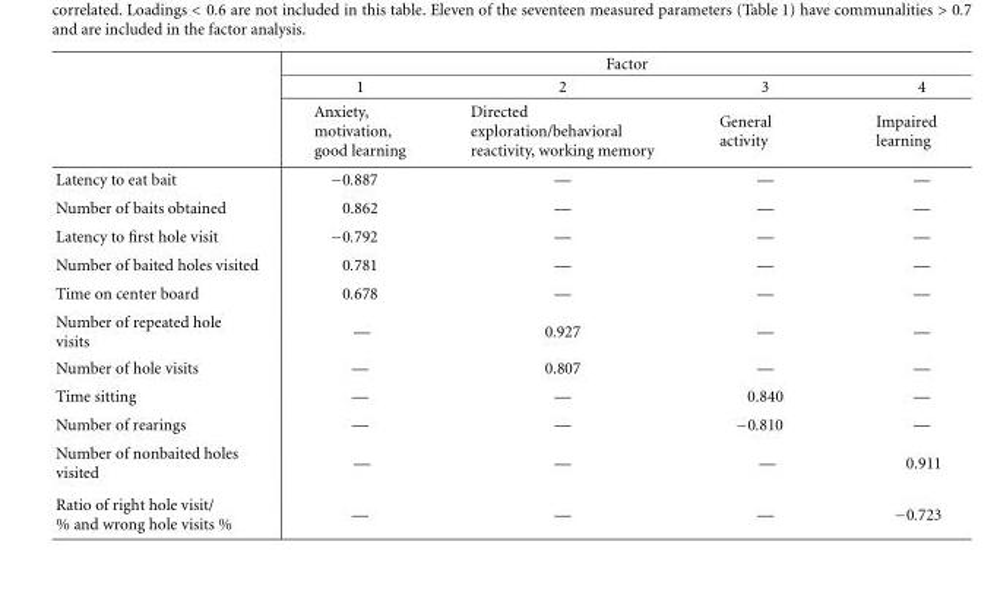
<table><thead><tr><td rowspan="2"></td><td colspan="4">Factor</td></tr><tr><td>1</td><td>2</td><td>3</td><td>4</td></tr></thead><tbody><tr><td></td><td>Anxiety, motivation, good learning</td><td>Directed exploration/behavioral reactivity, working memory</td><td>General activity</td><td>Impaired learning</td></tr><tr><td>Latency to eat bait</td><td>−0.887</td><td>—</td><td>—</td><td>—</td></tr><tr><td>Number of baits obtained</td><td>0.862</td><td>—</td><td>—</td><td>—</td></tr><tr><td>Latency to first hole visit</td><td>−0.792</td><td>—</td><td>—</td><td>—</td></tr><tr><td>Number of baited holes visited</td><td>0.781</td><td>—</td><td>—</td><td>—</td></tr><tr><td>Time on center board</td><td>0.678</td><td>—</td><td>—</td><td>—</td></tr><tr><td>Number of repeated hole visits</td><td>—</td><td>0.927</td><td>—</td><td>—</td></tr><tr><td>Number of hole visits</td><td>—</td><td>0.807</td><td>—</td><td>—</td></tr><tr><td>Time sitting</td><td>—</td><td>—</td><td>0.840</td><td>—</td></tr><tr><td>Number of rearings</td><td>—</td><td>—</td><td>−0.810</td><td>—</td></tr><tr><td>Number of nonbaited holes visited</td><td>—</td><td>—</td><td>—</td><td>0.911</td></tr><tr><td>Ratio of right hole visit/ % and wrong hole visits %</td><td>—</td><td>—</td><td>—</td><td>−0.723</td></tr></tbody></table>